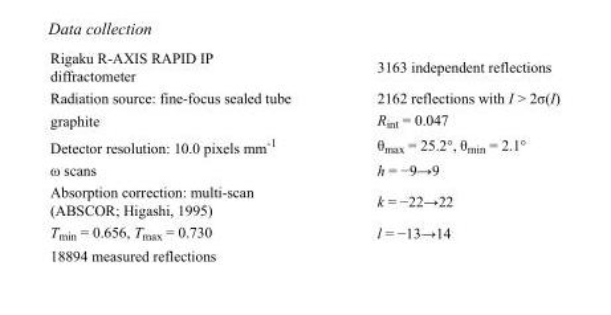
<table><tbody><tr><td>Rigaku R-AXIS RAPID IP diffractometer</td><td>3163 independent reflections</td></tr><tr><td>Radiation source: fine-focus sealed tube</td><td>2162 reflections with I &gt; 2σ(I)</td></tr><tr><td>graphite</td><td>R<sub>int</sub> = 0.047</td></tr><tr><td>Detector resolution: 10.0 pixels mm<sup>-1</sup></td><td>θ<sub>max</sub> = 25.2°, θ<sub>min</sub> = 2.1°</td></tr><tr><td>ω scans</td><td>h = −9→9</td></tr><tr><td>Absorption correction: multi-scan (ABSCOR; Higashi, 1995)</td><td>k = −22→22</td></tr><tr><td>T<sub>min</sub> = 0.656, T<sub>max</sub> = 0.730</td><td>l = −13→14</td></tr><tr><td>18894 measured reflections</td><td></td></tr></tbody></table>